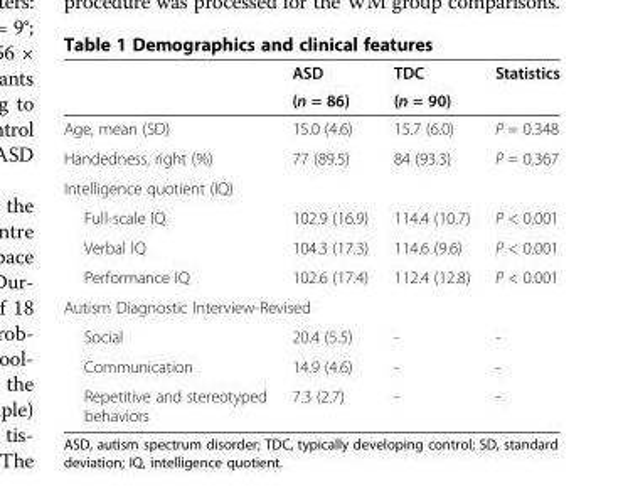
<table><thead><tr><td rowspan="2"></td><td rowspan="2">ASD (n = 86)</td><td rowspan="2">TDC (n = 90)</td><td rowspan="2">Statistics</td></tr><tr></tr></thead><tbody><tr><td>Age, mean (SD)</td><td>15.0 (4.6)</td><td>15.7 (6.0)</td><td>P = 0.348</td></tr><tr><td>Handedness, right (%)</td><td>77 (89.5)</td><td>84 (93.3)</td><td>P = 0.367</td></tr><tr><td colspan="4">Intelligence quotient (IQ)</td></tr><tr><td>Full-scale IQ</td><td>102.9 (16.9)</td><td>114.4 (10.7)</td><td>P &lt; 0.001</td></tr><tr><td>Verbal IQ</td><td>104.3 (17.3)</td><td>114.6 (9.6)</td><td>P &lt; 0.001</td></tr><tr><td>Performance IQ</td><td>102.6 (17.4)</td><td>112.4 (12.8)</td><td>P &lt; 0.001</td></tr><tr><td colspan="4">Autism Diagnostic Interview-Revised</td></tr><tr><td>Social</td><td>20.4 (5.5)</td><td>-</td><td>-</td></tr><tr><td>Communication</td><td>14.9 (4.6)</td><td>-</td><td>-</td></tr><tr><td>Repetitive and stereotyped behaviors</td><td>7.3 (2.7)</td><td>-</td><td>-</td></tr></tbody></table>